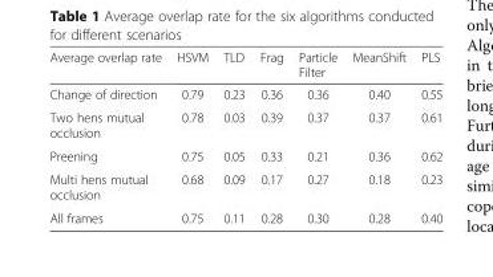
<table><thead><tr><td>Average overlap rate</td><td>HSVM</td><td>TLD</td><td>Frag</td><td>Particle Filter</td><td>MeanShift</td><td>PLS</td></tr></thead><tbody><tr><td>Change of direction</td><td>0.79</td><td>0.23</td><td>0.36</td><td>0.36</td><td>0.40</td><td>0.55</td></tr><tr><td>Two hens mutual occlusion</td><td>0.78</td><td>0.03</td><td>0.39</td><td>0.37</td><td>0.37</td><td>0.61</td></tr><tr><td>Preening</td><td>0.75</td><td>0.05</td><td>0.33</td><td>0.21</td><td>0.36</td><td>0.62</td></tr><tr><td>Multi hens mutual occlusion</td><td>0.68</td><td>0.09</td><td>0.17</td><td>0.27</td><td>0.18</td><td>0.23</td></tr><tr><td>All frames</td><td>0.75</td><td>0.11</td><td>0.28</td><td>0.30</td><td>0.28</td><td>0.40</td></tr></tbody></table>